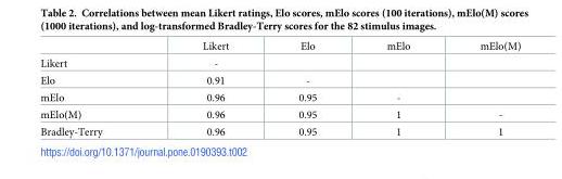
<table><thead><tr><td></td><td>Likert</td><td>Elo</td><td>mElo</td><td>mElo(M)</td></tr></thead><tbody><tr><td>Likert</td><td>-</td><td></td><td></td><td></td></tr><tr><td>Elo</td><td>0.91</td><td>-</td><td></td><td></td></tr><tr><td>mElo</td><td>0.96</td><td>0.95</td><td>-</td><td></td></tr><tr><td>mElo(M)</td><td>0.96</td><td>0.95</td><td>1</td><td>-</td></tr><tr><td>Bradley-Terry</td><td>0.96</td><td>0.95</td><td>1</td><td>1</td></tr></tbody></table>